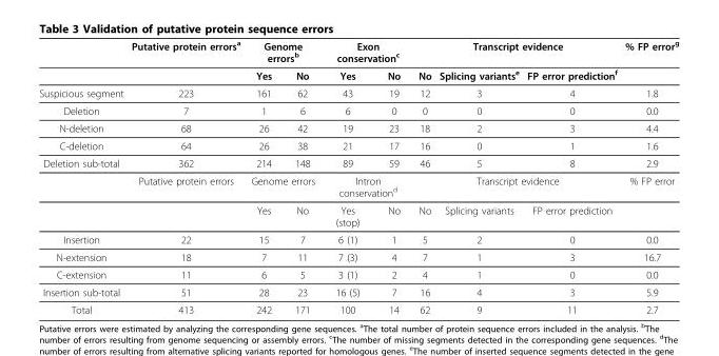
<table><thead><tr><td rowspan="2"></td><td rowspan="2">Putative protein errors<sup>a</sup></td><td colspan="2">Genome errors<sup>b</sup></td><td colspan="2">Exon conservation<sup>c</sup></td><td colspan="3">Transcript evidence</td><td rowspan="2">% FP error<sup>g</sup></td></tr><tr><td>Yes</td><td>No</td><td>Yes</td><td>No</td><td>No</td><td>Splicing variants<sup>e</sup></td><td>FP error prediction<sup>f</sup></td></tr></thead><tbody><tr><td>Suspicious segment</td><td>223</td><td>161</td><td>62</td><td>43</td><td>19</td><td>12</td><td>3</td><td>4</td><td>1.8</td></tr><tr><td>Deletion</td><td>7</td><td>1</td><td>6</td><td>6</td><td>0</td><td>0</td><td>0</td><td>0</td><td>0.0</td></tr><tr><td>N-deletion</td><td>68</td><td>26</td><td>42</td><td>19</td><td>23</td><td>18</td><td>2</td><td>3</td><td>4.4</td></tr><tr><td>C-deletion</td><td>64</td><td>26</td><td>38</td><td>21</td><td>17</td><td>16</td><td>0</td><td>1</td><td>1.6</td></tr><tr><td rowspan="3">Deletion sub-total</td><td>362</td><td>214</td><td>148</td><td>89</td><td>59</td><td>46</td><td>5</td><td>8</td><td>2.9</td></tr><tr><td>Putative protein errors</td><td colspan="2">Genome errors</td><td colspan="2">Intron conservation<sup>d</sup></td><td colspan="3">Transcript evidence</td><td>% FP error</td></tr><tr><td></td><td>Yes</td><td>No</td><td>Yes (stop)</td><td>No</td><td>No</td><td>Splicing variants</td><td>FP error prediction</td><td></td></tr><tr><td>Insertion</td><td>22</td><td>15</td><td>7</td><td>6 (1)</td><td>1</td><td>5</td><td>2</td><td>0</td><td>0.0</td></tr><tr><td>N-extension</td><td>18</td><td>7</td><td>11</td><td>7 (3)</td><td>4</td><td>7</td><td>1</td><td>3</td><td>16.7</td></tr><tr><td>C-extension</td><td>11</td><td>6</td><td>5</td><td>3 (1)</td><td>2</td><td>4</td><td>1</td><td>0</td><td>0.0</td></tr><tr><td>Insertion sub-total</td><td>51</td><td>28</td><td>23</td><td>16 (5)</td><td>7</td><td>16</td><td>4</td><td>3</td><td>5.9</td></tr><tr><td>Total</td><td>413</td><td>242</td><td>171</td><td>100</td><td>14</td><td>62</td><td>9</td><td>11</td><td>2.7</td></tr></tbody></table>